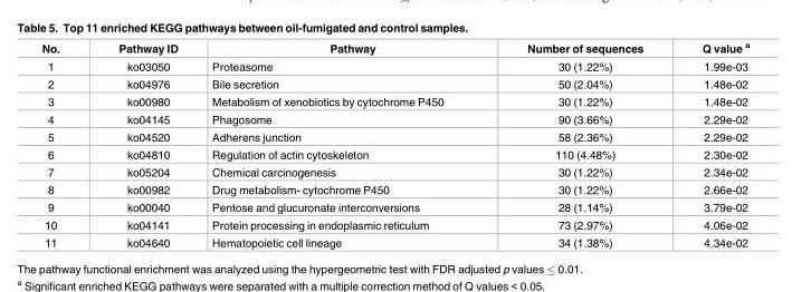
<table><thead><tr><td>No.</td><td>Pathway ID</td><td>Pathway</td><td>Number of sequences</td><td>Q value <sup>a</sup></td></tr></thead><tbody><tr><td>1</td><td>ko03050</td><td>Proteasome</td><td>30 (1.22%)</td><td>1.99e-03</td></tr><tr><td>2</td><td>ko04976</td><td>Bile secretion</td><td>50 (2.04%)</td><td>1.48e-02</td></tr><tr><td>3</td><td>ko00980</td><td>Metabolism of xenobiotics by cytochrome P450</td><td>30 (1.22%)</td><td>1.48e-02</td></tr><tr><td>4</td><td>ko04145</td><td>Phagosome</td><td>90 (3.66%)</td><td>2.29e-02</td></tr><tr><td>5</td><td>ko04520</td><td>Adherens junction</td><td>58 (2.36%)</td><td>2.29e-02</td></tr><tr><td>6</td><td>ko04810</td><td>Regulation of actin cytoskeleton</td><td>110 (4.48%)</td><td>2.30e-02</td></tr><tr><td>7</td><td>ko05204</td><td>Chemical carcinogenesis</td><td>30 (1.22%)</td><td>2.34e-02</td></tr><tr><td>8</td><td>ko00982</td><td>Drug metabolism- cytochrome P450</td><td>30 (1.22%)</td><td>2.66e-02</td></tr><tr><td>9</td><td>ko00040</td><td>Pentose and glucuronate interconversions</td><td>28 (1.14%)</td><td>3.79e-02</td></tr><tr><td>10</td><td>ko04141</td><td>Protein processing in endoplasmic reticulum</td><td>73 (2.97%)</td><td>4.06e-02</td></tr><tr><td>11</td><td>ko04640</td><td>Hematopoietic cell lineage</td><td>34 (1.38%)</td><td>4.34e-02</td></tr></tbody></table>